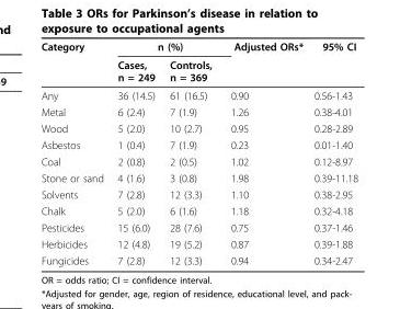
<table><thead><tr><td rowspan="2">Category</td><td colspan="2">n (%)</td><td rowspan="2">Adjusted ORs*</td><td rowspan="2">95% CI</td></tr><tr><td>Cases, n = 249</td><td>Controls, n = 369</td></tr></thead><tbody><tr><td>Any</td><td>36 (14.5)</td><td>61 (16.5)</td><td>0.90</td><td>0.56-1.43</td></tr><tr><td>Metal</td><td>6 (2.4)</td><td>7 (1.9)</td><td>1.26</td><td>0.38-4.01</td></tr><tr><td>Wood</td><td>5 (2.0)</td><td>10 (2.7)</td><td>0.95</td><td>0.28-2.89</td></tr><tr><td>Asbestos</td><td>1 (0.4)</td><td>7 (1.9)</td><td>0.23</td><td>0.01-1.40</td></tr><tr><td>Coal</td><td>2 (0.8)</td><td>2 (0.5)</td><td>1.02</td><td>0.12-8.97</td></tr><tr><td>Stone or sand</td><td>4 (1.6)</td><td>3 (0.8)</td><td>1.98</td><td>0.39-11.18</td></tr><tr><td>Solvents</td><td>7 (2.8)</td><td>12 (3.3)</td><td>1.10</td><td>0.38-2.95</td></tr><tr><td>Chalk</td><td>5 (2.0)</td><td>6 (1.6)</td><td>1.18</td><td>0.32-4.18</td></tr><tr><td>Pesticides</td><td>15 (6.0)</td><td>28 (7.6)</td><td>0.75</td><td>0.37-1.46</td></tr><tr><td>Herbicides</td><td>12 (4.8)</td><td>19 (5.2)</td><td>0.87</td><td>0.39-1.88</td></tr><tr><td>Fungicides</td><td>7 (2.8)</td><td>12 (3.3)</td><td>0.94</td><td>0.34-2.47</td></tr></tbody></table>